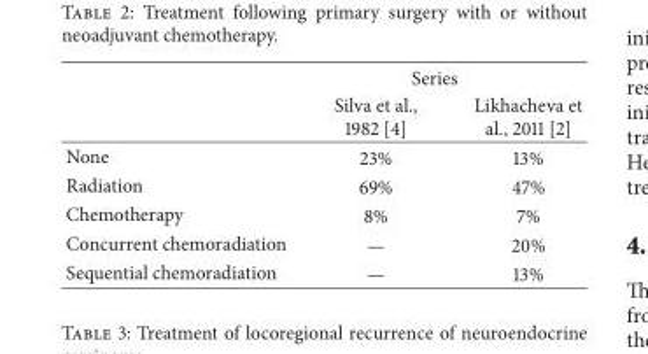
<table><thead><tr><td rowspan="2"></td><td colspan="2">Series</td></tr><tr><td>Silva et al., 1982 [4]</td><td>Likhacheva et al., 2011 [2]</td></tr></thead><tbody><tr><td>None</td><td>23%</td><td>13%</td></tr><tr><td>Radiation</td><td>69%</td><td>47%</td></tr><tr><td>Chemotherapy</td><td>8%</td><td>7%</td></tr><tr><td>Concurrent chemoradiation</td><td>—</td><td>20%</td></tr><tr><td>Sequential chemoradiation</td><td>—</td><td>13%</td></tr></tbody></table>